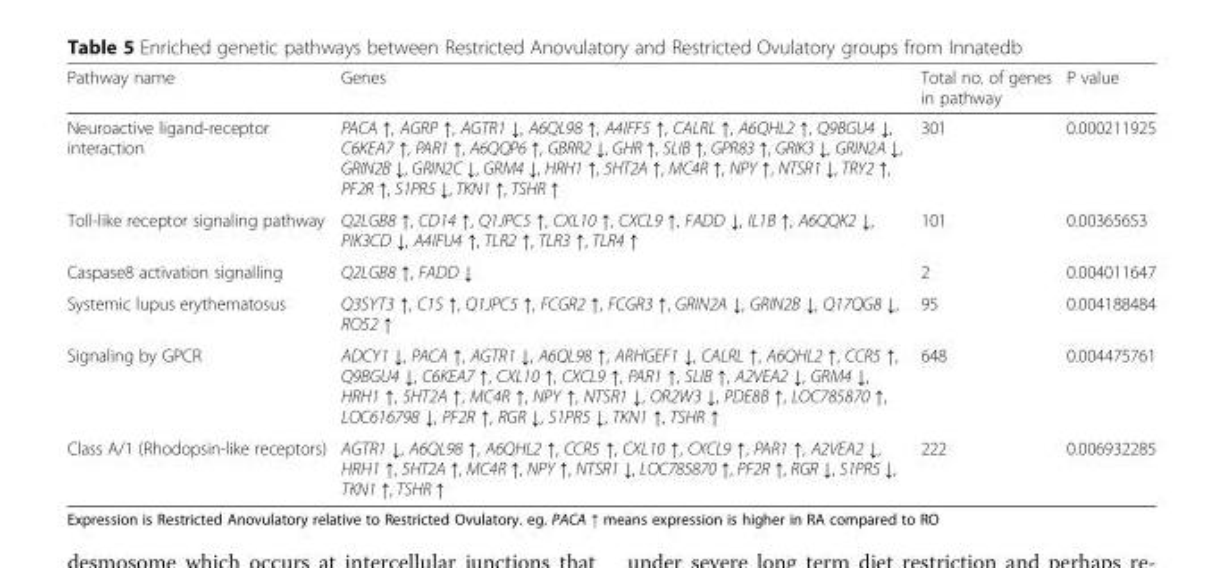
<table><thead><tr><td>Pathway name</td><td>Genes</td><td>Total no. of genes in pathway</td><td>P value</td></tr></thead><tbody><tr><td>Neuroactive ligand-receptor interaction</td><td>PACA ↑, AGRP ↑, AGTR1 ↓, A6QL98 ↑, A4IFF5 ↑, CALRL ↑, A6QHL2 ↑, Q9BGU4 ↓, C6KEA7 ↑, PAR1 ↑, A6QQP6 ↑, GBRR2 ↓, GHR ↑, SLIB ↑, GPR83 ↑, GRIK3 ↓, GRIN2A ↓, GRIN2B ↓, GRIN2C ↓, GRM4 ↓, HRH1 ↑, 5HT2A ↑, MC4R ↑, NPY ↑, NTSR1 ↓, TRY2 ↑, PF2R ↑, S1PR5 ↓, TKN1 ↑, TSHR ↑</td><td>301</td><td>0.000211925</td></tr><tr><td>Toll-like receptor signaling pathway</td><td>Q2LGB8 ↑, CD14 ↑, Q1JPC5 ↑, CXL10 ↑, CXCL9 ↑, FADD ↓, IL1B ↑, A6QQK2 ↓, PIK3CD ↓, A4IFU4 ↑, TLR2 ↑, TLR3 ↑, TLR4 ↑</td><td>101</td><td>0.00365653</td></tr><tr><td>Caspase8 activation signalling</td><td>Q2LGB8 ↑, FADD ↓</td><td>2</td><td>0.004011647</td></tr><tr><td>Systemic lupus erythematosus</td><td>Q3SYT3 ↑, C1S ↑, Q1JPC5 ↑, FCGR2 ↑, FCGR3 ↑, GRIN2A ↓, GRIN2B ↓, Q17QG8 ↓, RO52 ↑</td><td>95</td><td>0.004188484</td></tr><tr><td>Signaling by GPCR</td><td>ADCY1 ↓, PACA ↑, AGTR1 ↓, A6QL98 ↑, ARHGEF1 ↓, CALRL ↑, A6QHL2 ↑, CCR5 ↑, Q9BGU4 ↓, C6KEA7 ↑, CXL10 ↑, CXCL9 ↑, PAR1 ↑, SLIB ↑, A2VEA2 ↓, GRM4 ↓, HRH1 ↑, 5HT2A ↑, MC4R ↑, NPY ↑, NTSR1 ↓, OR2W3 ↓, PDE8B ↑, LOC785870 ↑, LOC616798 ↓, PF2R ↑, RGR ↓, S1PR5 ↓, TKN1 ↑, TSHR ↑</td><td>648</td><td>0.004475761</td></tr><tr><td>Class A/1 (Rhodopsin-like receptors)</td><td>AGTR1 ↓, A6QL98 ↑, A6QHL2 ↑, CCR5 ↑, CXL10 ↑, CXCL9 ↑, PAR1 ↑, A2VEA2 ↓, HRH1 ↑, 5HT2A ↑, MC4R ↑, NPY ↑, NTSR1 ↓, LOC785870 ↑, PF2R ↑, RGR ↓, S1PR5 ↓, TKN1 ↑, TSHR ↑</td><td>222</td><td>0.006932285</td></tr></tbody></table>